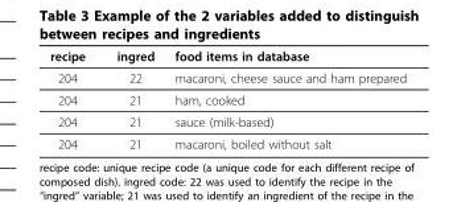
<table><thead><tr><td>recipe</td><td>ingred</td><td>food items in database</td></tr></thead><tbody><tr><td>204</td><td>22</td><td>macaroni, cheese sauce and ham prepared</td></tr><tr><td>204</td><td>21</td><td>ham, cooked</td></tr><tr><td>204</td><td>21</td><td>sauce (milk-based)</td></tr><tr><td>204</td><td>21</td><td>macaroni, boiled without salt</td></tr></tbody></table>